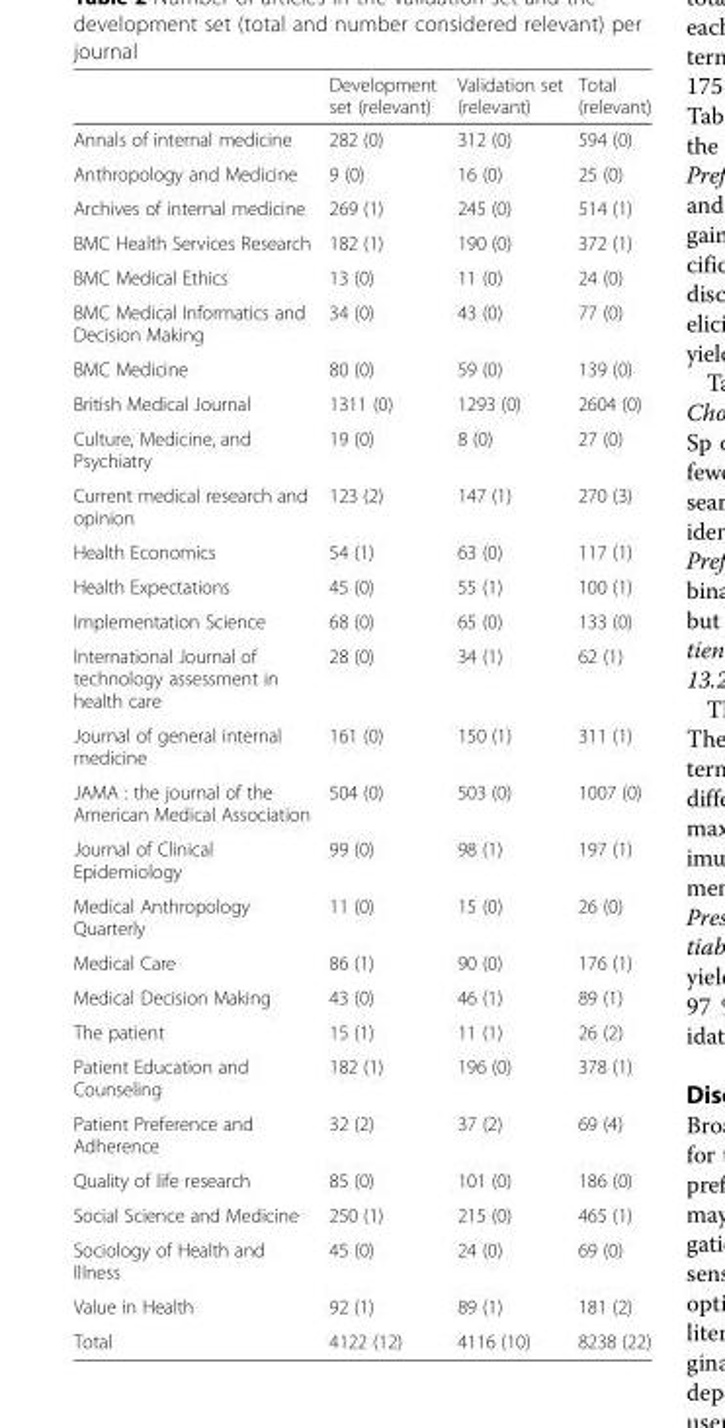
<table><thead><tr><td></td><td>Development set (relevant)</td><td>Validation set (relevant)</td><td>Total (relevant)</td></tr></thead><tbody><tr><td>Annals of internal medicine</td><td>282 (0)</td><td>312 (0)</td><td>594 (0)</td></tr><tr><td>Anthropology and Medicine</td><td>9 (0)</td><td>16 (0)</td><td>25 (0)</td></tr><tr><td>Archives of internal medicine</td><td>269 (1)</td><td>245 (0)</td><td>514 (1)</td></tr><tr><td>BMC Health Services Research</td><td>182 (1)</td><td>190 (0)</td><td>372 (1)</td></tr><tr><td>BMC Medical Ethics</td><td>13 (0)</td><td>11 (0)</td><td>24 (0)</td></tr><tr><td>BMC Medical Informatics and Decision Making</td><td>34 (0)</td><td>43 (0)</td><td>77 (0)</td></tr><tr><td>BMC Medicine</td><td>80 (0)</td><td>59 (0)</td><td>139 (0)</td></tr><tr><td>British Medical Journal</td><td>1311 (0)</td><td>1293 (0)</td><td>2604 (0)</td></tr><tr><td>Culture, Medicine, and Psychiatry</td><td>19 (0)</td><td>8 (0)</td><td>27 (0)</td></tr><tr><td>Current medical research and opinion</td><td>123 (2)</td><td>147 (1)</td><td>270 (3)</td></tr><tr><td>Health Economics</td><td>54 (1)</td><td>63 (0)</td><td>117 (1)</td></tr><tr><td>Health Expectations</td><td>45 (0)</td><td>55 (1)</td><td>100 (1)</td></tr><tr><td>Implementation Science</td><td>68 (0)</td><td>65 (0)</td><td>133 (0)</td></tr><tr><td>International Journal of technology assessment in health care</td><td>28 (0)</td><td>34 (1)</td><td>62 (1)</td></tr><tr><td>Journal of general internal medicine</td><td>161 (0)</td><td>150 (1)</td><td>311 (1)</td></tr><tr><td>JAMA : the journal of the American Medical Association</td><td>504 (0)</td><td>503 (0)</td><td>1007 (0)</td></tr><tr><td>Journal of Clinical Epidemiology</td><td>99 (0)</td><td>98 (1)</td><td>197 (1)</td></tr><tr><td>Medical Anthropology Quarterly</td><td>11 (0)</td><td>15 (0)</td><td>26 (0)</td></tr><tr><td>Medical Care</td><td>86 (1)</td><td>90 (0)</td><td>176 (1)</td></tr><tr><td>Medical Decision Making</td><td>43 (0)</td><td>46 (1)</td><td>89 (1)</td></tr><tr><td>The patient</td><td>15 (1)</td><td>11 (1)</td><td>26 (2)</td></tr><tr><td>Patient Education and Counseling</td><td>182 (1)</td><td>196 (0)</td><td>378 (1)</td></tr><tr><td>Patient Preference and Adherence</td><td>32 (2)</td><td>37 (2)</td><td>69 (4)</td></tr><tr><td>Quality of life research</td><td>85 (0)</td><td>101 (0)</td><td>186 (0)</td></tr><tr><td>Social Science and Medicine</td><td>250 (1)</td><td>215 (0)</td><td>465 (1)</td></tr><tr><td>Sociology of Health and Illness</td><td>45 (0)</td><td>24 (0)</td><td>69 (0)</td></tr><tr><td>Value in Health</td><td>92 (1)</td><td>89 (1)</td><td>181 (2)</td></tr><tr><td>Total</td><td>4122 (12)</td><td>4116 (10)</td><td>8238 (22)</td></tr></tbody></table>